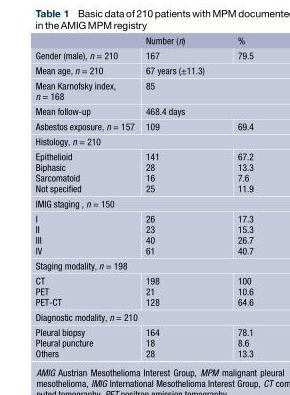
<table><thead><tr><td></td><td>Number (n)</td><td>%</td></tr></thead><tbody><tr><td>Gender (male), n = 210</td><td>167</td><td>79.5</td></tr><tr><td>Mean age, n = 210</td><td colspan="2">67 years (±11.3)</td></tr><tr><td>Mean Karnofsky index, n = 168</td><td colspan="2">85</td></tr><tr><td>Mean follow-up</td><td colspan="2">468.4 days</td></tr><tr><td>Asbestos exposure, n = 157</td><td>109</td><td>69.4</td></tr><tr><td colspan="3">Histology, n = 210</td></tr><tr><td>Epithelioid Biphasic Sarcomatoid Not specified</td><td>141 28 16 25</td><td>67.2 13.3 7.6 11.9</td></tr><tr><td colspan="3">IMIG staging , n = 150</td></tr><tr><td>I II III IV</td><td>26 23 40 61</td><td>17.3 15.3 26.7 40.7</td></tr><tr><td colspan="3">Staging modality, n = 198</td></tr><tr><td>CT PET PET-CT</td><td>198 21 128</td><td>100 10.6 64.6</td></tr><tr><td colspan="3">Diagnostic modality, n = 210</td></tr><tr><td>Pleural biopsy Pleural puncture Others</td><td>164 18 28</td><td>78.1 8.6 13.3</td></tr></tbody></table>